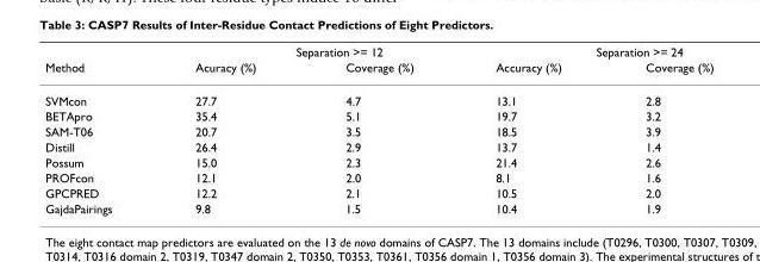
<table><thead><tr><td rowspan="2">Method</td><td colspan="2">Separation &gt;= 12</td><td colspan="2">Separation &gt;= 24</td></tr><tr><td>Acuracy (%)</td><td>Coverage (%)</td><td>Accuracy (%)</td><td>Coverage (%)</td></tr></thead><tbody><tr><td>SVMcon</td><td>27.7</td><td>4.7</td><td>13.1</td><td>2.8</td></tr><tr><td>BETApro</td><td>35.4</td><td>5.1</td><td>19.7</td><td>3.2</td></tr><tr><td>SAM-T06</td><td>20.7</td><td>3.5</td><td>18.5</td><td>3.9</td></tr><tr><td>Distill</td><td>26.4</td><td>2.9</td><td>13.7</td><td>1.4</td></tr><tr><td>Possum</td><td>15.0</td><td>2.3</td><td>21.4</td><td>2.6</td></tr><tr><td>PROFcon</td><td>12.1</td><td>2.0</td><td>8.1</td><td>1.6</td></tr><tr><td>GPCPRED</td><td>12.2</td><td>2.1</td><td>10.5</td><td>2.0</td></tr><tr><td>GajdaPairings</td><td>9.8</td><td>1.5</td><td>10.4</td><td>1.9</td></tr></tbody></table>